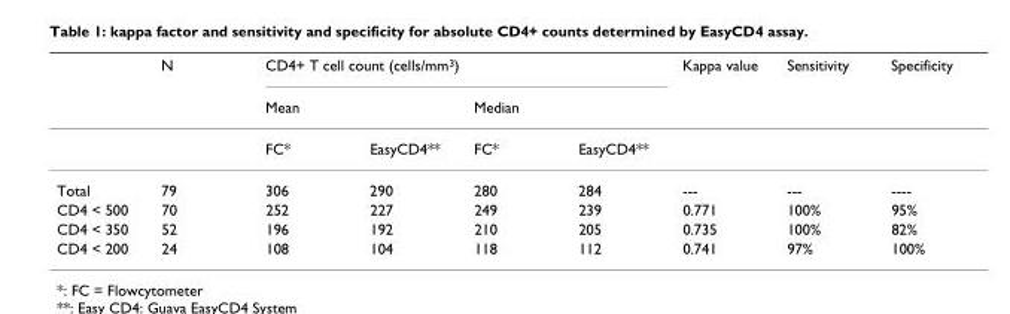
<table><thead><tr><td rowspan="3"></td><td rowspan="3">N</td><td colspan="4">CD4+ T cell count (cells/mm<sup>3</sup>)</td><td rowspan="3">Kappa value</td><td rowspan="3">Sensitivity</td><td rowspan="3">Specificity</td></tr><tr><td colspan="2">Mean</td><td colspan="2">Median</td></tr><tr><td>FC*</td><td>EasyCD4**</td><td>FC*</td><td>EasyCD4**</td></tr></thead><tbody><tr><td>Total</td><td>79</td><td>306</td><td>290</td><td>280</td><td>284</td><td>---</td><td>---</td><td>----</td></tr><tr><td>CD4 &lt; 500</td><td>70</td><td>252</td><td>227</td><td>249</td><td>239</td><td>0.771</td><td>100%</td><td>95%</td></tr><tr><td>CD4 &lt; 350</td><td>52</td><td>196</td><td>192</td><td>210</td><td>205</td><td>0.735</td><td>100%</td><td>82%</td></tr><tr><td>CD4 &lt; 200</td><td>24</td><td>108</td><td>104</td><td>118</td><td>112</td><td>0.741</td><td>97%</td><td>100%</td></tr></tbody></table>